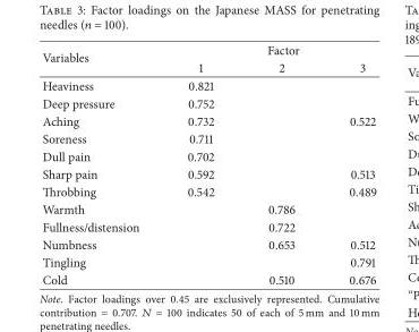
<table><thead><tr><td rowspan="2">Variables</td><td colspan="3">Factor</td></tr><tr><td>1</td><td>2</td><td>3</td></tr></thead><tbody><tr><td>Heaviness</td><td>0.821</td><td></td><td></td></tr><tr><td>Deep pressure</td><td>0.752</td><td></td><td></td></tr><tr><td>Aching</td><td>0.732</td><td></td><td>0.522</td></tr><tr><td>Soreness</td><td>0.711</td><td></td><td></td></tr><tr><td>Dull pain</td><td>0.702</td><td></td><td></td></tr><tr><td>Sharp pain</td><td>0.592</td><td></td><td>0.513</td></tr><tr><td>Throbbing</td><td>0.542</td><td></td><td>0.489</td></tr><tr><td>Warmth</td><td></td><td>0.786</td><td></td></tr><tr><td>Fullness/distension</td><td></td><td>0.722</td><td></td></tr><tr><td>Numbness</td><td></td><td>0.653</td><td>0.512</td></tr><tr><td>Tingling</td><td></td><td></td><td>0.791</td></tr><tr><td>Cold</td><td></td><td>0.510</td><td>0.676</td></tr></tbody></table>